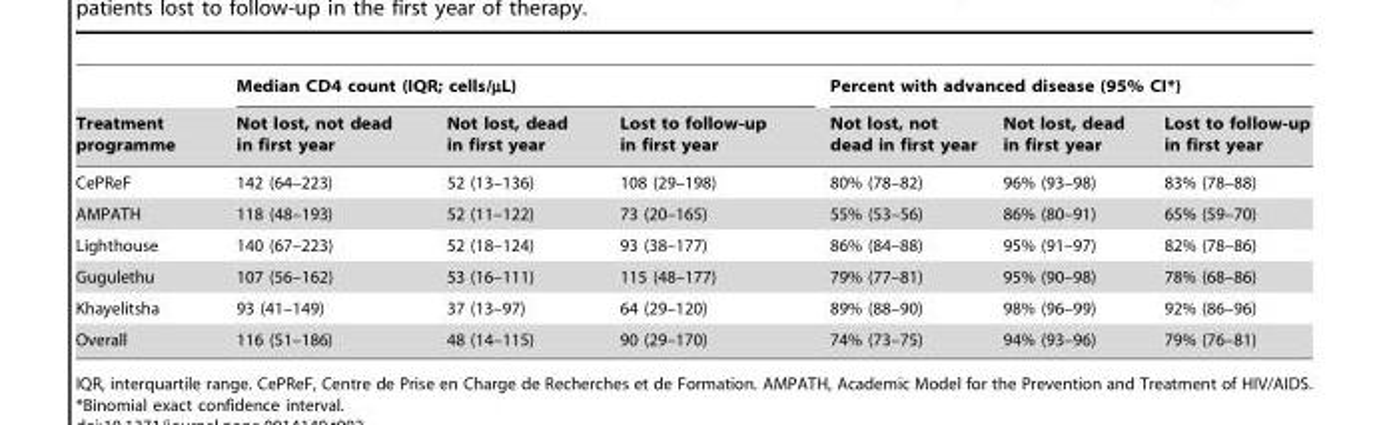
<table><thead><tr><td rowspan="2">Treatment programme</td><td colspan="3">Median CD4 count (IQR; cells/µL)</td><td colspan="3">Percent with advanced disease (95% CI*)</td></tr><tr><td>Not lost, not dead in first year</td><td>Not lost, dead in first year</td><td>Lost to follow-up in first year</td><td>Not lost, not dead in first year</td><td>Not lost, dead in first year</td><td>Lost to follow-up in first year</td></tr></thead><tbody><tr><td>CePReF</td><td>142 (64–223)</td><td>52 (13–136)</td><td>108 (29–198)</td><td>80% (78–82)</td><td>96% (93–98)</td><td>83% (78–88)</td></tr><tr><td>AMPATH</td><td>118 (48–193)</td><td>52 (11–122)</td><td>73 (20–165)</td><td>55% (53–56)</td><td>86% (80–91)</td><td>65% (59–70)</td></tr><tr><td>Lighthouse</td><td>140 (67–223)</td><td>52 (18–124)</td><td>93 (38–177)</td><td>86% (84–88)</td><td>95% (91–97)</td><td>82% (78–86)</td></tr><tr><td>Gugulethu</td><td>107 (56–162)</td><td>53 (16–111)</td><td>115 (48–177)</td><td>79% (77–81)</td><td>95% (90–98)</td><td>78% (68–86)</td></tr><tr><td>Khayelitsha</td><td>93 (41–149)</td><td>37 (13–97)</td><td>64 (29–120)</td><td>89% (88–90)</td><td>98% (96–99)</td><td>92% (86–96)</td></tr><tr><td>Overall</td><td>116 (51–186)</td><td>48 (14–115)</td><td>90 (29–170)</td><td>74% (73–75)</td><td>94% (93–96)</td><td>79% (76–81)</td></tr></tbody></table>